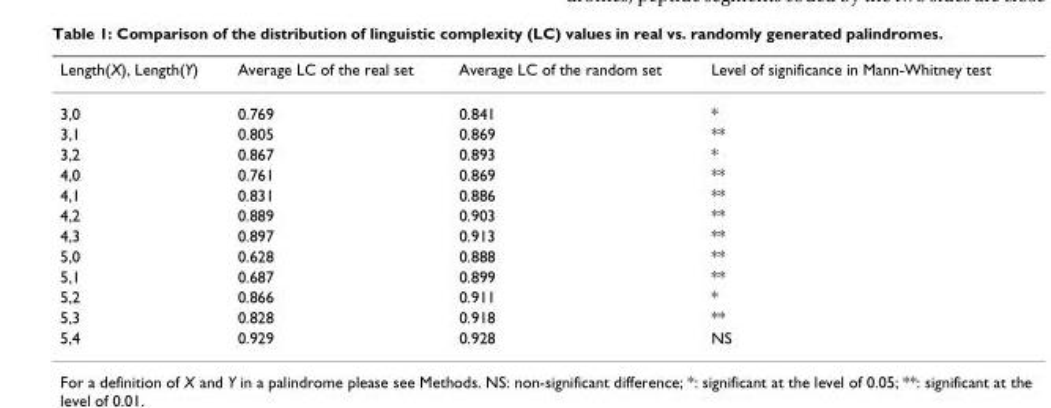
<table><thead><tr><td>Length(X), Length(Y)</td><td>Average LC of the real set</td><td>Average LC of the random set</td><td>Level of significance in Mann-Whitney test</td></tr></thead><tbody><tr><td>3,0</td><td>0.769</td><td>0.841</td><td>*</td></tr><tr><td>3,1</td><td>0.805</td><td>0.869</td><td>**</td></tr><tr><td>3,2</td><td>0.867</td><td>0.893</td><td>*</td></tr><tr><td>4,0</td><td>0.761</td><td>0.869</td><td>**</td></tr><tr><td>4,1</td><td>0.831</td><td>0.886</td><td>**</td></tr><tr><td>4,2</td><td>0.889</td><td>0.903</td><td>**</td></tr><tr><td>4,3</td><td>0.897</td><td>0.913</td><td>**</td></tr><tr><td>5,0</td><td>0.628</td><td>0.888</td><td>**</td></tr><tr><td>5,1</td><td>0.687</td><td>0.899</td><td>**</td></tr><tr><td>5,2</td><td>0.866</td><td>0.911</td><td>*</td></tr><tr><td>5,3</td><td>0.828</td><td>0.918</td><td>**</td></tr><tr><td>5,4</td><td>0.929</td><td>0.928</td><td>NS</td></tr></tbody></table>